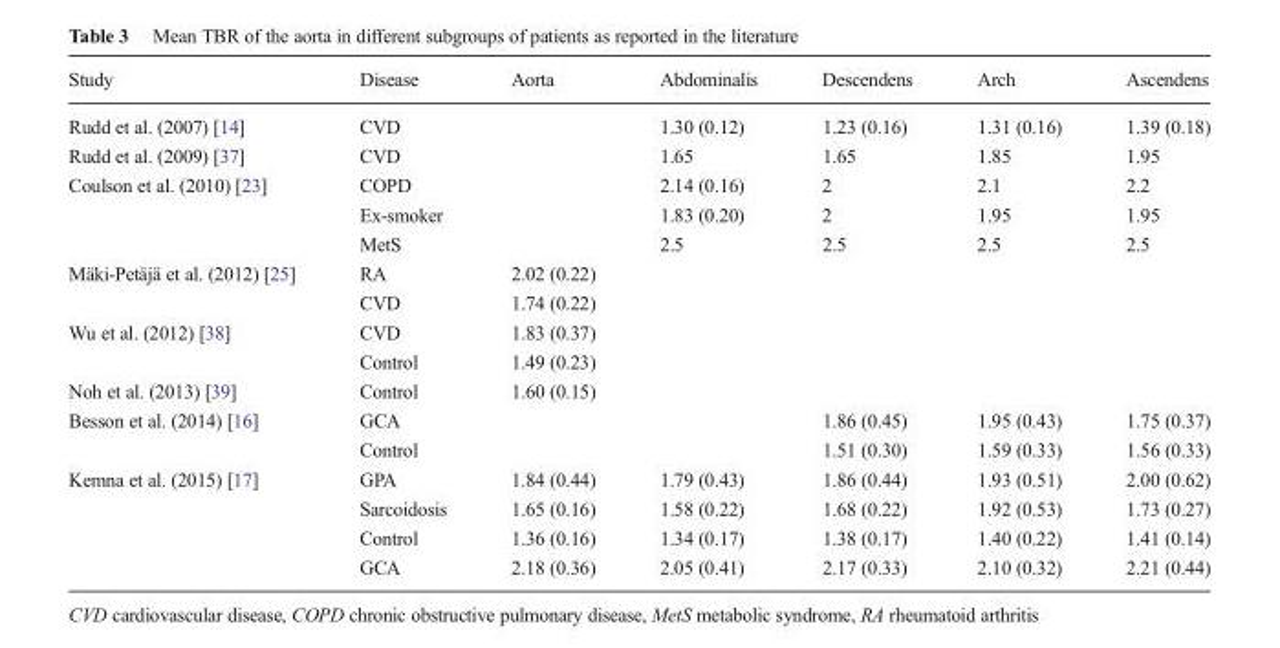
<table><thead><tr><td>Study</td><td>Disease</td><td>Aorta</td><td>Abdominalis</td><td>Descendens</td><td>Arch</td><td>Ascendens</td></tr></thead><tbody><tr><td>Rudd et al. (2007) [14]</td><td>CVD</td><td></td><td>1.30 (0.12)</td><td>1.23 (0.16)</td><td>1.31 (0.16)</td><td>1.39 (0.18)</td></tr><tr><td>Rudd et al. (2009) [37]</td><td>CVD</td><td></td><td>1.65</td><td>1.65</td><td>1.85</td><td>1.95</td></tr><tr><td rowspan="3">Coulson et al. (2010) [23]</td><td>COPD</td><td></td><td>2.14 (0.16)</td><td>2</td><td>2.1</td><td>2.2</td></tr><tr><td>Ex-smoker</td><td></td><td>1.83 (0.20)</td><td>2</td><td>1.95</td><td>1.95</td></tr><tr><td>MetS</td><td></td><td>2.5</td><td>2.5</td><td>2.5</td><td>2.5</td></tr><tr><td rowspan="2">Mäki-Petäjä et al. (2012) [25]</td><td>RA</td><td>2.02 (0.22)</td><td></td><td></td><td></td><td></td></tr><tr><td>CVD</td><td>1.74 (0.22)</td><td></td><td></td><td></td><td></td></tr><tr><td rowspan="2">Wu et al. (2012) [38]</td><td>CVD</td><td>1.83 (0.37)</td><td></td><td></td><td></td><td></td></tr><tr><td>Control</td><td>1.49 (0.23)</td><td></td><td></td><td></td><td></td></tr><tr><td>Noh et al. (2013) [39]</td><td>Control</td><td>1.60 (0.15)</td><td></td><td></td><td></td><td></td></tr><tr><td rowspan="2">Besson et al. (2014) [16]</td><td>GCA</td><td></td><td></td><td>1.86 (0.45)</td><td>1.95 (0.43)</td><td>1.75 (0.37)</td></tr><tr><td>Control</td><td></td><td></td><td>1.51 (0.30)</td><td>1.59 (0.33)</td><td>1.56 (0.33)</td></tr><tr><td rowspan="4">Kemna et al. (2015) [17]</td><td>GPA</td><td>1.84 (0.44)</td><td>1.79 (0.43)</td><td>1.86 (0.44)</td><td>1.93 (0.51)</td><td>2.00 (0.62)</td></tr><tr><td>Sarcoidosis</td><td>1.65 (0.16)</td><td>1.58 (0.22)</td><td>1.68 (0.22)</td><td>1.92 (0.53)</td><td>1.73 (0.27)</td></tr><tr><td>Control</td><td>1.36 (0.16)</td><td>1.34 (0.17)</td><td>1.38 (0.17)</td><td>1.40 (0.22)</td><td>1.41 (0.14)</td></tr><tr><td>GCA</td><td>2.18 (0.36)</td><td>2.05 (0.41)</td><td>2.17 (0.33)</td><td>2.10 (0.32)</td><td>2.21 (0.44)</td></tr></tbody></table>